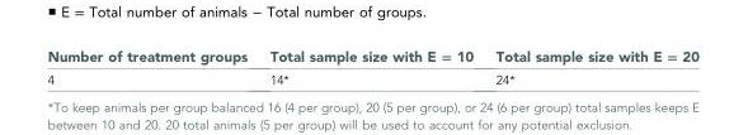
<table><thead><tr><td>Number of treatment groups</td><td>Total sample size with E = 10</td><td>Total sample size with E = 20</td></tr></thead><tbody><tr><td>4</td><td>14*</td><td>24*</td></tr></tbody></table>